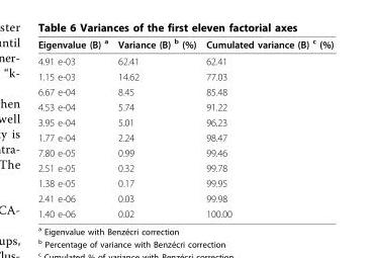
<table><thead><tr><td>Eigenvalue (B) <sup>a</sup></td><td>Variance (B) <sup>b</sup> (%)</td><td>Cumulated variance (B) <sup>c</sup> (%)</td></tr></thead><tbody><tr><td>4.91 e-03</td><td>62.41</td><td>62.41</td></tr><tr><td>1.15 e-03</td><td>14.62</td><td>77.03</td></tr><tr><td>6.67 e-04</td><td>8.45</td><td>85.48</td></tr><tr><td>4.53 e-04</td><td>5.74</td><td>91.22</td></tr><tr><td>3.95 e-04</td><td>5.01</td><td>96.23</td></tr><tr><td>1.77 e-04</td><td>2.24</td><td>98.47</td></tr><tr><td>7.80 e-05</td><td>0.99</td><td>99.46</td></tr><tr><td>2.51 e-05</td><td>0.32</td><td>99.78</td></tr><tr><td>1.38 e-05</td><td>0.17</td><td>99.95</td></tr><tr><td>2.41 e-06</td><td>0.03</td><td>99.98</td></tr><tr><td>1.40 e-06</td><td>0.02</td><td>100.00</td></tr></tbody></table>